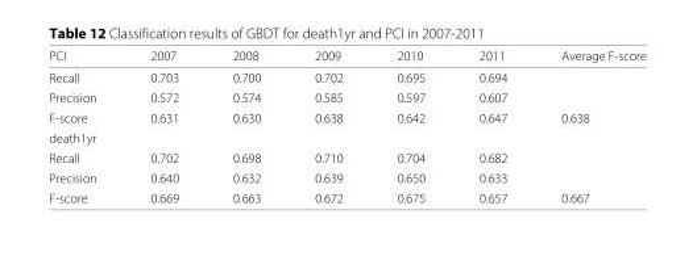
<table><thead><tr><td>PCI</td><td>2007</td><td>2008</td><td>2009</td><td>2010</td><td>2011</td><td>Average F-score</td></tr></thead><tbody><tr><td>Recall</td><td>0.703</td><td>0.700</td><td>0.702</td><td>0.695</td><td>0.694</td><td></td></tr><tr><td>Precision</td><td>0.572</td><td>0.574</td><td>0.585</td><td>0.597</td><td>0.607</td><td></td></tr><tr><td>F-score</td><td>0.631</td><td>0.630</td><td>0.638</td><td>0.642</td><td>0.647</td><td>0.638</td></tr><tr><td colspan="7">death1yr</td></tr><tr><td>Recall</td><td>0.702</td><td>0.698</td><td>0.710</td><td>0.704</td><td>0.682</td><td></td></tr><tr><td>Precision</td><td>0.640</td><td>0.632</td><td>0.639</td><td>0.650</td><td>0.633</td><td></td></tr><tr><td>F-score</td><td>0.669</td><td>0.663</td><td>0.672</td><td>0.675</td><td>0.657</td><td>0.667</td></tr></tbody></table>